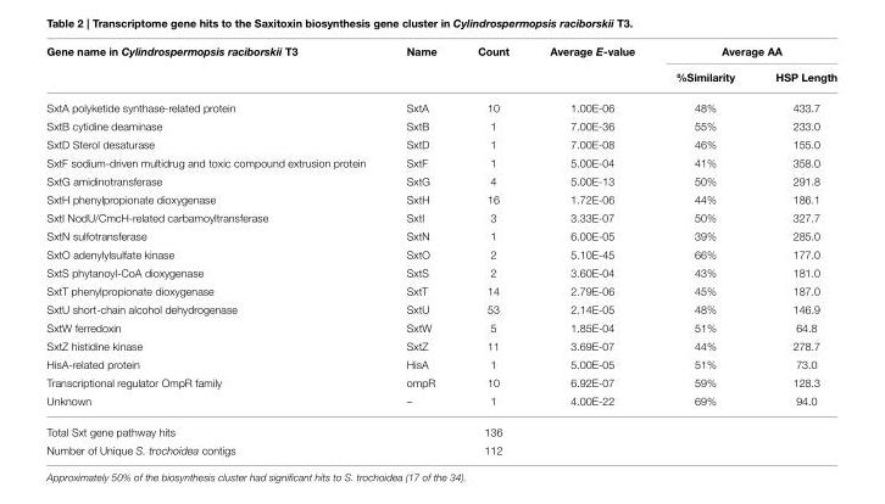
<table><thead><tr><td rowspan="2">Gene name in Cylindrospermopsis raciborskii T3</td><td rowspan="2">Name</td><td rowspan="2">Count</td><td rowspan="2">Average E-value</td><td colspan="2">Average AA</td></tr><tr><td>%Similarity</td><td>HSP Length</td></tr></thead><tbody><tr><td>SxtA polyketide synthase-related protein</td><td>SxtA</td><td>10</td><td>1.00E-06</td><td>48%</td><td>433.7</td></tr><tr><td>SxtB cytidine deaminase</td><td>SxtB</td><td>1</td><td>7.00E-36</td><td>55%</td><td>233.0</td></tr><tr><td>SxtD Sterol desaturase</td><td>SxtD</td><td>1</td><td>7.00E-08</td><td>46%</td><td>155.0</td></tr><tr><td>SxtF sodium-driven multidrug and toxic compound extrusion protein</td><td>SxtF</td><td>1</td><td>5.00E-04</td><td>41%</td><td>358.0</td></tr><tr><td>SxtG amidinotransferase</td><td>SxtG</td><td>4</td><td>5.00E-13</td><td>50%</td><td>291.8</td></tr><tr><td>SxtH phenylpropionate dioxygenase</td><td>SxtH</td><td>16</td><td>1.72E-06</td><td>44%</td><td>186.1</td></tr><tr><td>SxtI NodU/CmcH-related carbamoyltransferase</td><td>SxtI</td><td>3</td><td>3.33E-07</td><td>50%</td><td>327.7</td></tr><tr><td>SxtN sulfotransferase</td><td>SxtN</td><td>1</td><td>6.00E-05</td><td>39%</td><td>285.0</td></tr><tr><td>SxtO adenylylsulfate kinase</td><td>SxtO</td><td>2</td><td>5.10E-45</td><td>66%</td><td>177.0</td></tr><tr><td>SxtS phytanoyl-CoA dioxygenase</td><td>SxtS</td><td>2</td><td>3.60E-04</td><td>43%</td><td>181.0</td></tr><tr><td>SxtT phenylpropionate dioxygenase</td><td>SxtT</td><td>14</td><td>2.79E-06</td><td>45%</td><td>187.0</td></tr><tr><td>SxtU short-chain alcohol dehydrogenase</td><td>SxtU</td><td>53</td><td>2.14E-05</td><td>48%</td><td>146.9</td></tr><tr><td>SxtW ferredoxin</td><td>SxtW</td><td>5</td><td>1.85E-04</td><td>51%</td><td>64.8</td></tr><tr><td>SxtZ histidine kinase</td><td>SxtZ</td><td>11</td><td>3.69E-07</td><td>44%</td><td>278.7</td></tr><tr><td>HisA-related protein</td><td>HisA</td><td>1</td><td>5.00E-05</td><td>51%</td><td>73.0</td></tr><tr><td>Transcriptional regulator OmpR family</td><td>ompR</td><td>10</td><td>6.92E-07</td><td>59%</td><td>128.3</td></tr><tr><td>Unknown</td><td>–</td><td>1</td><td>4.00E-22</td><td>69%</td><td>94.0</td></tr><tr><td>Total Sxt gene pathway hits</td><td></td><td>136</td><td></td><td></td><td></td></tr><tr><td>Number of Unique S. trochoidea contigs</td><td></td><td>112</td><td></td><td></td><td></td></tr></tbody></table>